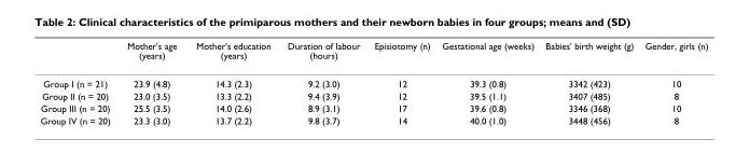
<table><thead><tr><td></td><td>Mother&#x27;s age (years)</td><td>Mother&#x27;s education (years)</td><td>Duration of labour (hours)</td><td>Episiotomy (n)</td><td>Gestational age (weeks)</td><td>Babies&#x27; birth weight (g)</td><td>Gender, girls (n)</td></tr></thead><tbody><tr><td>Group I (n = 21)</td><td>23.9 (4.8)</td><td>14.3 (2.3)</td><td>9.2 (3.0)</td><td>12</td><td>39.3 (0.8)</td><td>3342 (423)</td><td>10</td></tr><tr><td>Group II (n = 20)</td><td>23.0 (3.5)</td><td>13.3 (2.2)</td><td>9.4 (3.9)</td><td>12</td><td>39.5 (1.1)</td><td>3407 (485)</td><td>8</td></tr><tr><td>Group III (n = 20)</td><td>25.5 (3.5)</td><td>14.0 (2.6)</td><td>8.9 (3.1)</td><td>17</td><td>39.6 (0.8)</td><td>3346 (368)</td><td>10</td></tr><tr><td>Group IV (n = 20)</td><td>23.3 (3.0)</td><td>13.7 (2.2)</td><td>9.8 (3.7)</td><td>14</td><td>40.0 (1.0)</td><td>3448 (456)</td><td>8</td></tr></tbody></table>